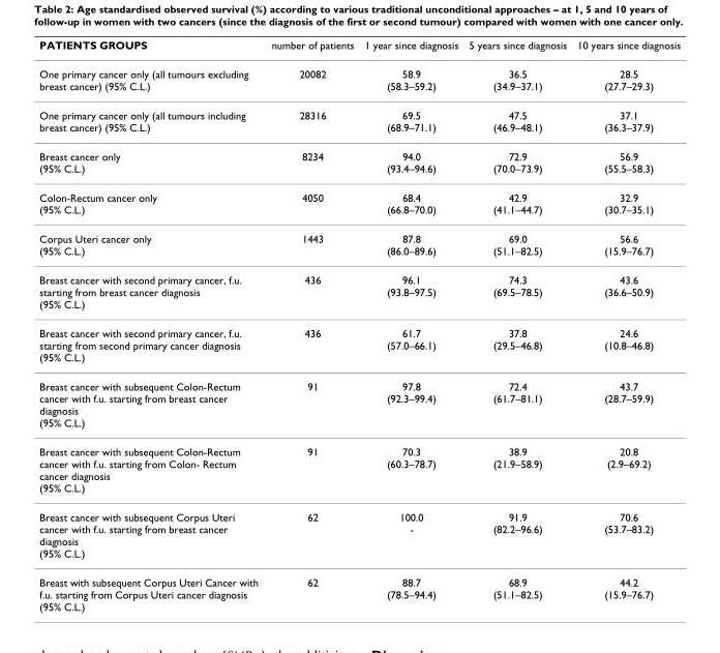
<table><thead><tr><td>PATIENTS GROUPS</td><td>number of patients</td><td>1 year since diagnosis</td><td>5 years since diagnosis</td><td>10 years since diagnosis</td></tr></thead><tbody><tr><td>One primary cancer only (all tumours excluding breast cancer) (95% C.L.)</td><td>20082</td><td>58.9 (58.3–59.2)</td><td>36.5 (34.9–37.1)</td><td>28.5 (27.7–29.3)</td></tr><tr><td>One primary cancer only (all tumours including breast cancer) (95% C.L.)</td><td>28316</td><td>69.5 (68.9–71.1)</td><td>47.5 (46.9–48.1)</td><td>37.1 (36.3–37.9)</td></tr><tr><td>Breast cancer only (95% C.L.)</td><td>8234</td><td>94.0 (93.4–94.6)</td><td>72.9 (70.0–73.9)</td><td>56.9 (55.5–58.3)</td></tr><tr><td>Colon-Rectum cancer only (95% C.L.)</td><td>4050</td><td>68.4 (66.8–70.0)</td><td>42.9 (41.1–44.7)</td><td>32.9 (30.7–35.1)</td></tr><tr><td>Corpus Uteri cancer only (95% C.L.)</td><td>1443</td><td>87.8 (86.0–89.6)</td><td>69.0 (51.1–82.5)</td><td>56.6 (15.9–76.7)</td></tr><tr><td>Breast cancer with second primary cancer, f.u. starting from breast cancer diagnosis (95% C.L.)</td><td>436</td><td>96.1 (93.8–97.5)</td><td>74.3 (69.5–78.5)</td><td>43.6 (36.6–50.9)</td></tr><tr><td>Breast cancer with second primary cancer, f.u. starting from second primary cancer diagnosis (95% C.L.)</td><td>436</td><td>61.7 (57.0–66.1)</td><td>37.8 (29.5–46.8)</td><td>24.6 (10.8–46.8)</td></tr><tr><td>Breast cancer with subsequent Colon-Rectum cancer with f.u. starting from breast cancer diagnosis (95% C.L.)</td><td>91</td><td>97.8 (92.3–99.4)</td><td>72.4 (61.7–81.1)</td><td>43.7 (28.7–59.9)</td></tr><tr><td>Breast cancer with subsequent Colon-Rectum cancer with f.u. starting from Colon- Rectum cancer diagnosis (95% C.L.)</td><td>91</td><td>70.3 (60.3–78.7)</td><td>38.9 (21.9–58.9)</td><td>20.8 (2.9–69.2)</td></tr><tr><td>Breast cancer with subsequent Corpus Uteri cancer with f.u. starting from breast cancer diagnosis (95% C.L.)</td><td>62</td><td>100.0 -</td><td>91.9 (82.2–96.6)</td><td>70.6 (53.7–83.2)</td></tr><tr><td>Breast with subsequent Corpus Uteri Cancer with f.u. starting from Corpus Uteri cancer diagnosis (95% C.L.)</td><td>62</td><td>88.7 (78.5–94.4)</td><td>68.9 (51.1–82.5)</td><td>44.2 (15.9–76.7)</td></tr></tbody></table>